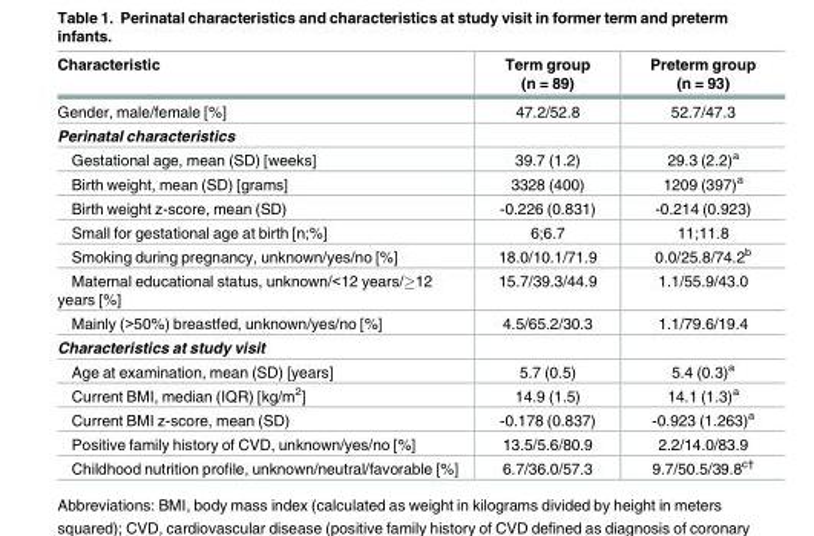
<table><thead><tr><td>Characteristic</td><td>Term group (n = 89)</td><td>Preterm group (n = 93)</td></tr></thead><tbody><tr><td>Gender, male/female [%]</td><td>47.2/52.8</td><td>52.7/47.3</td></tr><tr><td colspan="3">Perinatal characteristics</td></tr><tr><td>Gestational age, mean (SD) [weeks]</td><td>39.7 (1.2)</td><td>29.3 (2.2)<sup>a</sup></td></tr><tr><td>Birth weight, mean (SD) [grams]</td><td>3328 (400)</td><td>1209 (397)<sup>a</sup></td></tr><tr><td>Birth weight z-score, mean (SD)</td><td>-0.226 (0.831)</td><td>-0.214 (0.923)</td></tr><tr><td>Small for gestational age at birth [n;%]</td><td>6;6.7</td><td>11;11.8</td></tr><tr><td>Smoking during pregnancy, unknown/yes/no [%]</td><td>18.0/10.1/71.9</td><td>0.0/25.8/74.2<sup>b</sup></td></tr><tr><td>Maternal educational status, unknown/&lt;12 years/≥12 years [%]</td><td>15.7/39.3/44.9</td><td>1.1/55.9/43.0</td></tr><tr><td>Mainly (&gt;50%) breastfed, unknown/yes/no [%]</td><td>4.5/65.2/30.3</td><td>1.1/79.6/19.4</td></tr><tr><td colspan="3">Characteristics at study visit</td></tr><tr><td>Age at examination, mean (SD) [years]</td><td>5.7 (0.5)</td><td>5.4 (0.3)<sup>a</sup></td></tr><tr><td>Current BMI, median (IQR) [kg/m<sup>2</sup>]</td><td>14.9 (1.5)</td><td>14.1 (1.3)<sup>a</sup></td></tr><tr><td>Current BMI z-score, mean (SD)</td><td>-0.178 (0.837)</td><td>-0.923 (1.263)<sup>a</sup></td></tr><tr><td>Positive family history of CVD, unknown/yes/no [%]</td><td>13.5/5.6/80.9</td><td>2.2/14.0/83.9</td></tr><tr><td>Childhood nutrition profile, unknown/neutral/favorable [%]</td><td>6.7/36.0/57.3</td><td>9.7/50.5/39.8<sup>c†</sup></td></tr></tbody></table>